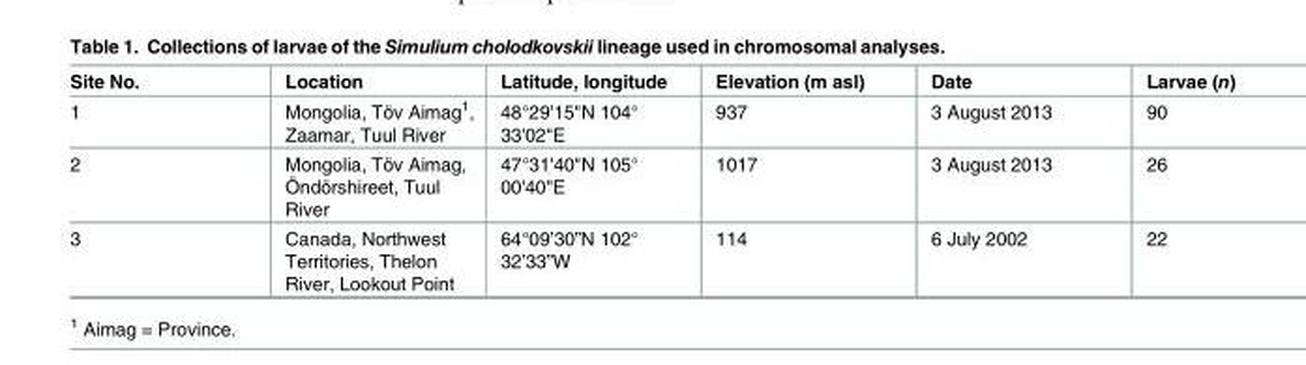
<table><thead><tr><td>Site No.</td><td>Location</td><td>Latitude, longitude</td><td>Elevation (m asl)</td><td>Date</td><td>Larvae (n)</td></tr></thead><tbody><tr><td>1</td><td>Mongolia, Töv Aimag<sup>1</sup>, Zaamar, Tuul River</td><td>48°29&#x27;15&quot;N 104° 33&#x27;02&quot;E</td><td>937</td><td>3 August 2013</td><td>90</td></tr><tr><td>2</td><td>Mongolia, Töv Aimag, Öndörshireet, Tuul River</td><td>47°31&#x27;40&quot;N 105° 00&#x27;40&quot;E</td><td>1017</td><td>3 August 2013</td><td>26</td></tr><tr><td>3</td><td>Canada, Northwest Territories, Thelon River, Lookout Point</td><td>64°09’30”N 102° 32’33”W</td><td>114</td><td>6 July 2002</td><td>22</td></tr></tbody></table>